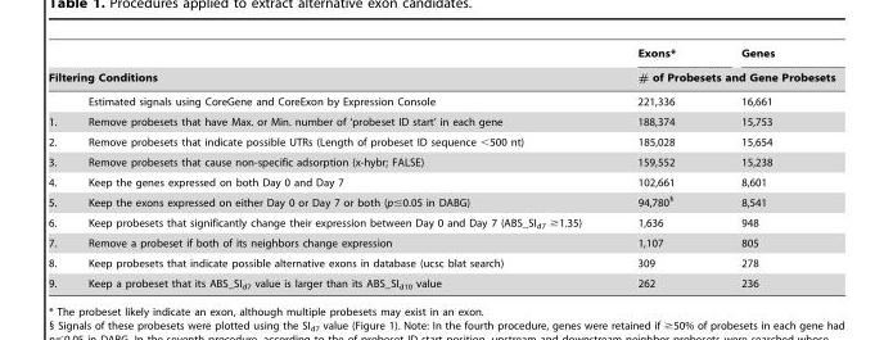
<table><thead><tr><td></td><td></td><td>Exons*</td><td>Genes</td></tr><tr><td colspan="2">Filtering Conditions</td><td colspan="2"># of Probesets and Gene Probesets</td></tr></thead><tbody><tr><td></td><td>Estimated signals using CoreGene and CoreExon by Expression Console</td><td>221,336</td><td>16,661</td></tr><tr><td>1.</td><td>Remove probesets that have Max. or Min. number of ‘probeset ID start’ in each gene</td><td>188,374</td><td>15,753</td></tr><tr><td>2.</td><td>Remove probesets that indicate possible UTRs (Length of probeset ID sequence &lt;500 nt)</td><td>185,028</td><td>15,654</td></tr><tr><td>3.</td><td>Remove probesets that cause non-specific adsorption (x-hybr; FALSE)</td><td>159,552</td><td>15,238</td></tr><tr><td>4.</td><td>Keep the genes expressed on both Day 0 and Day 7</td><td>102,661</td><td>8,601</td></tr><tr><td>5.</td><td>Keep the exons expressed on either Day 0 or Day 7 or both (p≤0.05 in DABG)</td><td>94,780§</td><td>8,541</td></tr><tr><td>6.</td><td>Keep probesets that significantly change their expression between Day 0 and Day 7 (ABS_SI<sub>d7</sub> ≥1.35)</td><td>1,636</td><td>948</td></tr><tr><td>7.</td><td>Remove a probeset if both of its neighbors change expression</td><td>1,107</td><td>805</td></tr><tr><td>8.</td><td>Keep probesets that indicate possible alternative exons in database (ucsc blat search)</td><td>309</td><td>278</td></tr><tr><td>9.</td><td>Keep a probeset that its ABS_SI<sub>d7</sub> value is larger than its ABS_SI<sub>d10</sub> value</td><td>262</td><td>236</td></tr></tbody></table>